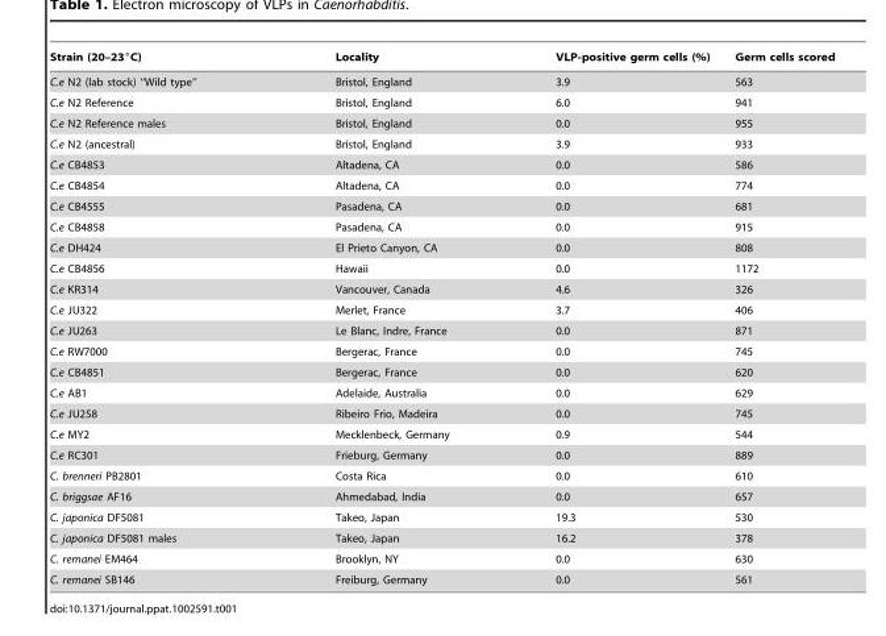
<table><thead><tr><td>Strain (20–23°C)</td><td>Locality</td><td>VLP-positive germ cells (%)</td><td>Germ cells scored</td></tr></thead><tbody><tr><td>C.e N2 (lab stock) ‘‘Wild type’’</td><td>Bristol, England</td><td>3.9</td><td>563</td></tr><tr><td>C.e N2 Reference</td><td>Bristol, England</td><td>6.0</td><td>941</td></tr><tr><td>C.e N2 Reference males</td><td>Bristol, England</td><td>0.0</td><td>955</td></tr><tr><td>C.e N2 (ancestral)</td><td>Bristol, England</td><td>3.9</td><td>933</td></tr><tr><td>C.e CB4853</td><td>Altadena, CA</td><td>0.0</td><td>586</td></tr><tr><td>C.e CB4854</td><td>Altadena, CA</td><td>0.0</td><td>774</td></tr><tr><td>C.e CB4555</td><td>Pasadena, CA</td><td>0.0</td><td>681</td></tr><tr><td>C.e CB4858</td><td>Pasadena, CA</td><td>0.0</td><td>915</td></tr><tr><td>C.e DH424</td><td>El Prieto Canyon, CA</td><td>0.0</td><td>808</td></tr><tr><td>C.e CB4856</td><td>Hawaii</td><td>0.0</td><td>1172</td></tr><tr><td>C.e KR314</td><td>Vancouver, Canada</td><td>4.6</td><td>326</td></tr><tr><td>C.e JU322</td><td>Merlet, France</td><td>3.7</td><td>406</td></tr><tr><td>C.e JU263</td><td>Le Blanc, Indre, France</td><td>0.0</td><td>871</td></tr><tr><td>C.e RW7000</td><td>Bergerac, France</td><td>0.0</td><td>745</td></tr><tr><td>C.e CB4851</td><td>Bergerac, France</td><td>0.0</td><td>620</td></tr><tr><td>C.e AB1</td><td>Adelaide, Australia</td><td>0.0</td><td>629</td></tr><tr><td>C.e JU258</td><td>Ribeiro Frio, Madeira</td><td>0.0</td><td>745</td></tr><tr><td>C.e MY2</td><td>Mecklenbeck, Germany</td><td>0.9</td><td>544</td></tr><tr><td>C.e RC301</td><td>Frieburg, Germany</td><td>0.0</td><td>889</td></tr><tr><td>C. brenneri PB2801</td><td>Costa Rica</td><td>0.0</td><td>610</td></tr><tr><td>C. briggsae AF16</td><td>Ahmedabad, India</td><td>0.0</td><td>657</td></tr><tr><td>C. japonica DF5081</td><td>Takeo, Japan</td><td>19.3</td><td>530</td></tr><tr><td>C. japonica DF5081 males</td><td>Takeo, Japan</td><td>16.2</td><td>378</td></tr><tr><td>C. remanei EM464</td><td>Brooklyn, NY</td><td>0.0</td><td>630</td></tr><tr><td>C. remanei SB146</td><td>Freiburg, Germany</td><td>0.0</td><td>561</td></tr></tbody></table>